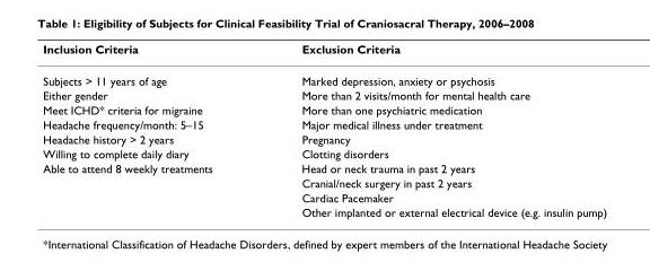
<table><thead><tr><td>Inclusion Criteria</td><td>Exclusion Criteria</td></tr></thead><tbody><tr><td>Subjects &gt; 11 years of age</td><td>Marked depression, anxiety or psychosis</td></tr><tr><td>Either gender</td><td>More than 2 visits/month for mental health care</td></tr><tr><td>Meet ICHD* criteria for migraine</td><td>More than one psychiatric medication</td></tr><tr><td>Headache frequency/month: 5–15</td><td>Major medical illness under treatment</td></tr><tr><td>Headache history &gt; 2 years</td><td>Pregnancy</td></tr><tr><td>Willing to complete daily diary</td><td>Clotting disorders</td></tr><tr><td rowspan="4">Able to attend 8 weekly treatments</td><td>Head or neck trauma in past 2 years</td></tr><tr><td>Cranial/neck surgery in past 2 years</td></tr><tr><td>Cardiac Pacemaker</td></tr><tr><td>Other implanted or external electrical device (e.g. insulin pump)</td></tr></tbody></table>